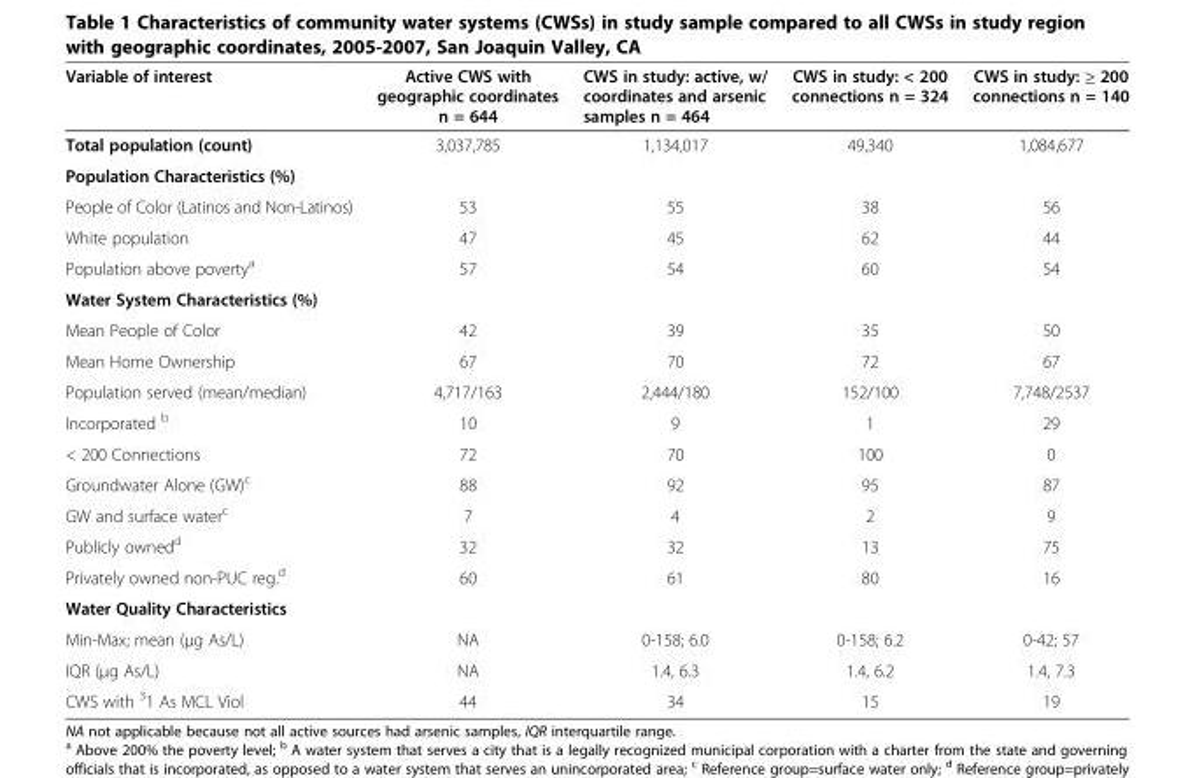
<table><thead><tr><td>Variable of interest</td><td>Active CWS with geographic coordinates n = 644</td><td>CWS in study: active, w/ coordinates and arsenic samples n = 464</td><td>CWS in study: &lt; 200 connections n = 324</td><td>CWS in study: ≥ 200 connections n = 140</td></tr></thead><tbody><tr><td>Total population (count)</td><td>3,037,785</td><td>1,134,017</td><td>49,340</td><td>1,084,677</td></tr><tr><td colspan="5">Population Characteristics (%)</td></tr><tr><td>People of Color (Latinos and Non-Latinos)</td><td>53</td><td>55</td><td>38</td><td>56</td></tr><tr><td>White population</td><td>47</td><td>45</td><td>62</td><td>44</td></tr><tr><td>Population above poverty<sup>a</sup></td><td>57</td><td>54</td><td>60</td><td>54</td></tr><tr><td colspan="5">Water System Characteristics (%)</td></tr><tr><td>Mean People of Color</td><td>42</td><td>39</td><td>35</td><td>50</td></tr><tr><td>Mean Home Ownership</td><td>67</td><td>70</td><td>72</td><td>67</td></tr><tr><td>Population served (mean/median)</td><td>4,717/163</td><td>2,444/180</td><td>152/100</td><td>7,748/2537</td></tr><tr><td>Incorporated <sup>b</sup></td><td>10</td><td>9</td><td>1</td><td>29</td></tr><tr><td>&lt; 200 Connections</td><td>72</td><td>70</td><td>100</td><td>0</td></tr><tr><td>Groundwater Alone (GW)<sup>c</sup></td><td>88</td><td>92</td><td>95</td><td>87</td></tr><tr><td>GW and surface water<sup>c</sup></td><td>7</td><td>4</td><td>2</td><td>9</td></tr><tr><td>Publicly owned<sup>d</sup></td><td>32</td><td>32</td><td>13</td><td>75</td></tr><tr><td>Privately owned non-PUC reg.<sup>d</sup></td><td>60</td><td>61</td><td>80</td><td>16</td></tr><tr><td colspan="5">Water Quality Characteristics</td></tr><tr><td>Min-Max; mean (μg As/L)</td><td>NA</td><td>0-158; 6.0</td><td>0-158; 6.2</td><td>0-42; 57</td></tr><tr><td>IQR (μg As/L)</td><td>NA</td><td>1.4, 6.3</td><td>1.4, 6.2</td><td>1.4, 7.3</td></tr><tr><td>CWS with <sup>3</sup>1 As MCL Viol</td><td>44</td><td>34</td><td>15</td><td>19</td></tr></tbody></table>